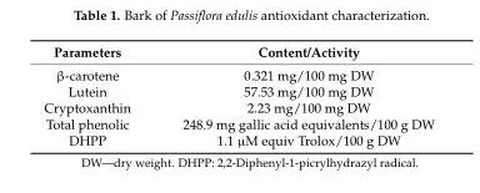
<table><thead><tr><td>Parameters</td><td>Content/Activity</td></tr></thead><tbody><tr><td>β-carotene</td><td>0.321 mg/100 mg DW</td></tr><tr><td>Lutein</td><td>57.53 mg/100 mg DW</td></tr><tr><td>Cryptoxanthin</td><td>2.23 mg/100 mg DW</td></tr><tr><td>Total phenolic</td><td>248.9 mg gallic acid equivalents/100 g DW</td></tr><tr><td>DHPP</td><td>1.1 µM equiv Trolox/100 g DW</td></tr></tbody></table>